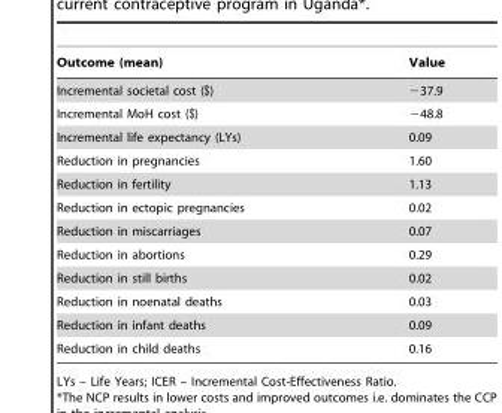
<table><thead><tr><td>Outcome (mean)</td><td>Value</td></tr></thead><tbody><tr><td>Incremental societal cost ($)</td><td>−37.9</td></tr><tr><td>Incremental MoH cost ($)</td><td>−48.8</td></tr><tr><td>Incremental life expectancy (LYs)</td><td>0.09</td></tr><tr><td>Reduction in pregnancies</td><td>1.60</td></tr><tr><td>Reduction in fertility</td><td>1.13</td></tr><tr><td>Reduction in ectopic pregnancies</td><td>0.02</td></tr><tr><td>Reduction in miscarriages</td><td>0.07</td></tr><tr><td>Reduction in abortions</td><td>0.29</td></tr><tr><td>Reduction in still births</td><td>0.02</td></tr><tr><td>Reduction in noenatal deaths</td><td>0.03</td></tr><tr><td>Reduction in infant deaths</td><td>0.09</td></tr><tr><td>Reduction in child deaths</td><td>0.16</td></tr></tbody></table>